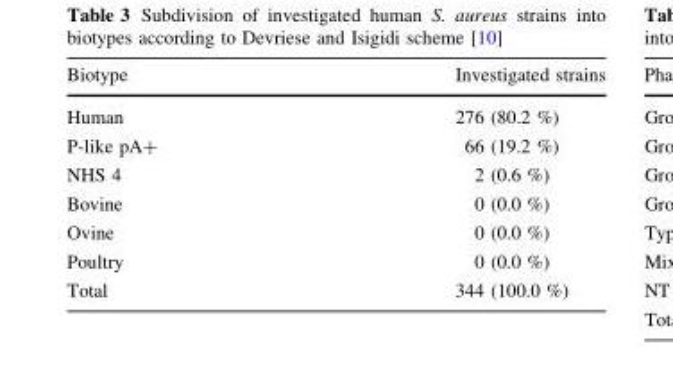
<table><thead><tr><td>Biotype</td><td>Investigated strains</td></tr></thead><tbody><tr><td>Human</td><td>276 (80.2 %)</td></tr><tr><td>P-like pA+</td><td>66 (19.2 %)</td></tr><tr><td>NHS 4</td><td>2 (0.6 %)</td></tr><tr><td>Bovine</td><td>0 (0.0 %)</td></tr><tr><td>Ovine</td><td>0 (0.0 %)</td></tr><tr><td>Poultry</td><td>0 (0.0 %)</td></tr><tr><td>Total</td><td>344 (100.0 %)</td></tr></tbody></table>